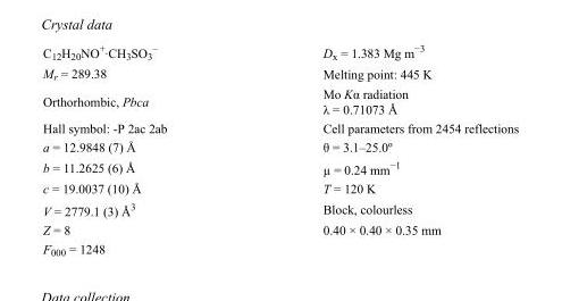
<table><tbody><tr><td>C<sub>12</sub>H<sub>20</sub>NO<sup>+</sup>·CH<sub>3</sub>SO<sub>3</sub> <sup>–</sup></td><td>D<sub>x</sub> = 1.383 Mg m<sup>−3</sup></td></tr><tr><td>M<sub>r</sub> = 289.38</td><td>Melting point: 445 K</td></tr><tr><td>Orthorhombic, Pbca</td><td>Mo Kα radiation λ = 0.71073 Å</td></tr><tr><td>Hall symbol: -P 2ac 2ab</td><td>Cell parameters from 2454 reflections</td></tr><tr><td>a = 12.9848 (7) Å</td><td>θ = 3.1–25.0º</td></tr><tr><td>b = 11.2625 (6) Å</td><td>µ = 0.24 mm<sup>−1</sup></td></tr><tr><td>c = 19.0037 (10) Å</td><td>T = 120 K</td></tr><tr><td>V = 2779.1 (3) Å<sup>3</sup></td><td>Block, colourless</td></tr><tr><td>Z = 8</td><td>0.40 × 0.40 × 0.35 mm</td></tr><tr><td>F000 = 1248</td><td></td></tr></tbody></table>